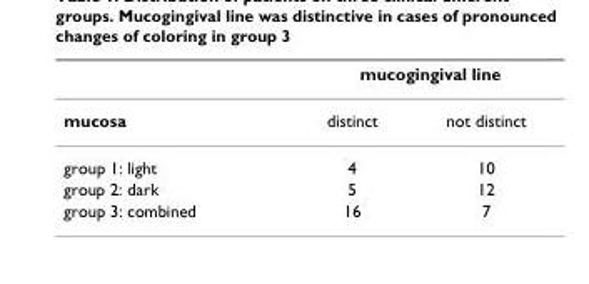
<table><thead><tr><td rowspan="2">mucosa</td><td colspan="2">mucogingival line</td></tr><tr><td>distinct</td><td>not distinct</td></tr></thead><tbody><tr><td>group 1: light</td><td>4</td><td>10</td></tr><tr><td>group 2: dark</td><td>5</td><td>12</td></tr><tr><td>group 3: combined</td><td>16</td><td>7</td></tr></tbody></table>